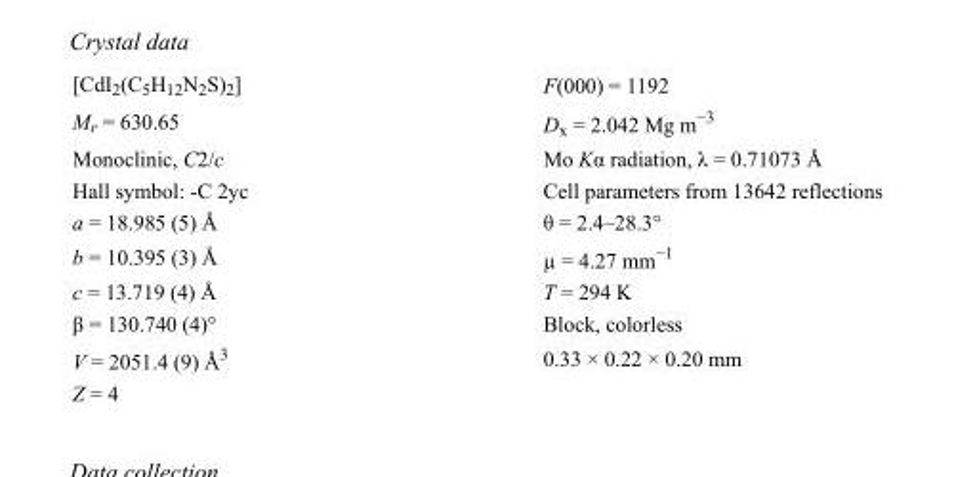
<table><tbody><tr><td>[CdI<sub>2</sub>(C<sub>5</sub>H<sub>12</sub>N<sub>2</sub>S)<sub>2</sub>]</td><td>F(000) = 1192</td></tr><tr><td>M<sub>r</sub> = 630.65</td><td>D<sub>x</sub> = 2.042 Mg m<sup>−3</sup></td></tr><tr><td>Monoclinic, C2/c</td><td>Mo Kα radiation, λ = 0.71073 Å</td></tr><tr><td>Hall symbol: -C 2yc</td><td>Cell parameters from 13642 reflections</td></tr><tr><td>a = 18.985 (5) Å</td><td>θ = 2.4–28.3°</td></tr><tr><td>b = 10.395 (3) Å</td><td>µ = 4.27 mm<sup>−1</sup></td></tr><tr><td>c = 13.719 (4) Å</td><td>T = 294 K</td></tr><tr><td>β = 130.740 (4)°</td><td>Block, colorless</td></tr><tr><td>V = 2051.4 (9) Å<sup>3</sup></td><td>0.33 × 0.22 × 0.20 mm</td></tr><tr><td>Z = 4</td><td></td></tr></tbody></table>